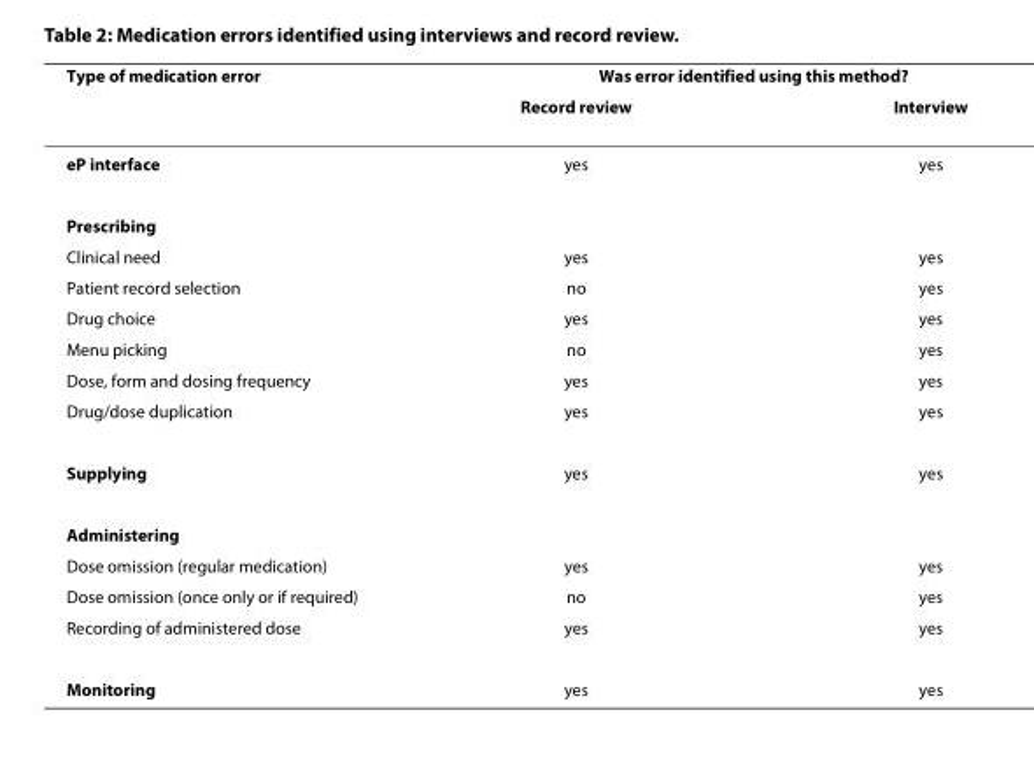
<table><thead><tr><td rowspan="2">Type of medication error</td><td colspan="2">Was error identified using this method?</td></tr><tr><td>Record review</td><td>Interview</td></tr></thead><tbody><tr><td>eP interface</td><td>yes</td><td>yes</td></tr><tr><td colspan="3">Prescribing</td></tr><tr><td>Clinical need</td><td>yes</td><td>yes</td></tr><tr><td>Patient record selection</td><td>no</td><td>yes</td></tr><tr><td>Drug choice</td><td>yes</td><td>yes</td></tr><tr><td>Menu picking</td><td>no</td><td>yes</td></tr><tr><td>Dose, form and dosing frequency</td><td>yes</td><td>yes</td></tr><tr><td>Drug/dose duplication</td><td>yes</td><td>yes</td></tr><tr><td>Supplying</td><td>yes</td><td>yes</td></tr><tr><td colspan="3">Administering</td></tr><tr><td>Dose omission (regular medication)</td><td>yes</td><td>yes</td></tr><tr><td>Dose omission (once only or if required)</td><td>no</td><td>yes</td></tr><tr><td>Recording of administered dose</td><td>yes</td><td>yes</td></tr><tr><td>Monitoring</td><td>yes</td><td>yes</td></tr></tbody></table>